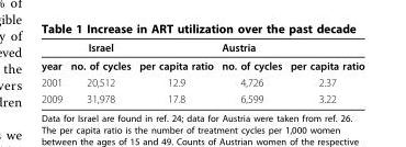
<table><thead><tr><td></td><td>Israel</td><td></td><td>Austria</td><td></td></tr></thead><tbody><tr><td>year</td><td>no. of cycles</td><td>per capita ratio</td><td>no. of cycles</td><td>per capita ratio</td></tr><tr><td>2001</td><td>20,512</td><td>12.9</td><td>4,726</td><td>2.37</td></tr><tr><td>2009</td><td>31,978</td><td>17.8</td><td>6,599</td><td>3.22</td></tr></tbody></table>